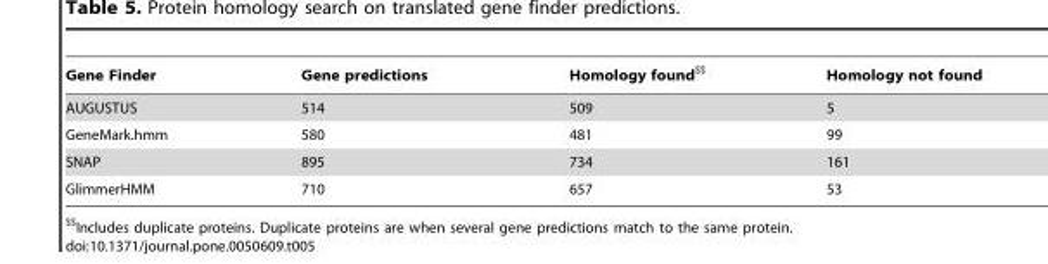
<table><thead><tr><td>Gene Finder</td><td>Gene predictions</td><td>Homology found$$</td><td>Homology not found</td></tr></thead><tbody><tr><td>AUGUSTUS</td><td>514</td><td>509</td><td>5</td></tr><tr><td>GeneMark.hmm</td><td>580</td><td>481</td><td>99</td></tr><tr><td>SNAP</td><td>895</td><td>734</td><td>161</td></tr><tr><td>GlimmerHMM</td><td>710</td><td>657</td><td>53</td></tr></tbody></table>